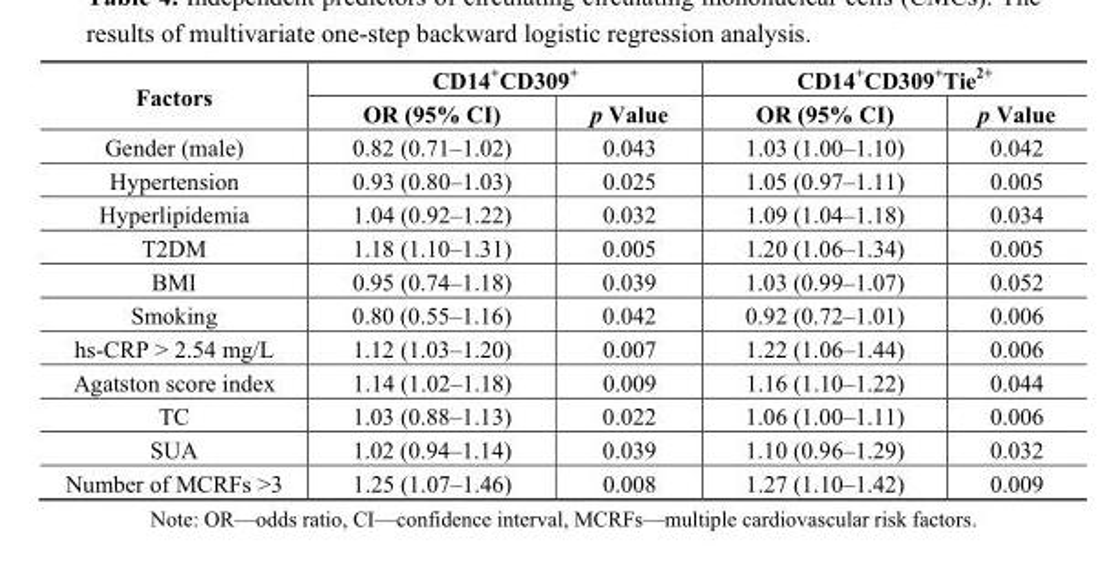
<table><thead><tr><td rowspan="2">Factors</td><td colspan="2">CD14<sup>+</sup>CD309<sup>+</sup></td><td colspan="2">CD14<sup>+</sup>CD309<sup>+</sup>Tie<sup>2+</sup></td></tr><tr><td>OR (95% CI)</td><td>p Value</td><td>OR (95% CI)</td><td>p Value</td></tr></thead><tbody><tr><td>Gender (male)</td><td>0.82 (0.71–1.02)</td><td>0.043</td><td>1.03 (1.00–1.10)</td><td>0.042</td></tr><tr><td>Hypertension</td><td>0.93 (0.80–1.03)</td><td>0.025</td><td>1.05 (0.97–1.11)</td><td>0.005</td></tr><tr><td>Hyperlipidemia</td><td>1.04 (0.92–1.22)</td><td>0.032</td><td>1.09 (1.04–1.18)</td><td>0.034</td></tr><tr><td>T2DM</td><td>1.18 (1.10–1.31)</td><td>0.005</td><td>1.20 (1.06–1.34)</td><td>0.005</td></tr><tr><td>BMI</td><td>0.95 (0.74–1.18)</td><td>0.039</td><td>1.03 (0.99–1.07)</td><td>0.052</td></tr><tr><td>Smoking</td><td>0.80 (0.55–1.16)</td><td>0.042</td><td>0.92 (0.72–1.01)</td><td>0.006</td></tr><tr><td>hs-CRP &gt; 2.54 mg/L</td><td>1.12 (1.03–1.20)</td><td>0.007</td><td>1.22 (1.06–1.44)</td><td>0.006</td></tr><tr><td>Agatston score index</td><td>1.14 (1.02–1.18)</td><td>0.009</td><td>1.16 (1.10–1.22)</td><td>0.044</td></tr><tr><td>TC</td><td>1.03 (0.88–1.13)</td><td>0.022</td><td>1.06 (1.00–1.11)</td><td>0.006</td></tr><tr><td>SUA</td><td>1.02 (0.94–1.14)</td><td>0.039</td><td>1.10 (0.96–1.29)</td><td>0.032</td></tr><tr><td>Number of MCRFs &gt;3</td><td>1.25 (1.07–1.46)</td><td>0.008</td><td>1.27 (1.10–1.42)</td><td>0.009</td></tr></tbody></table>